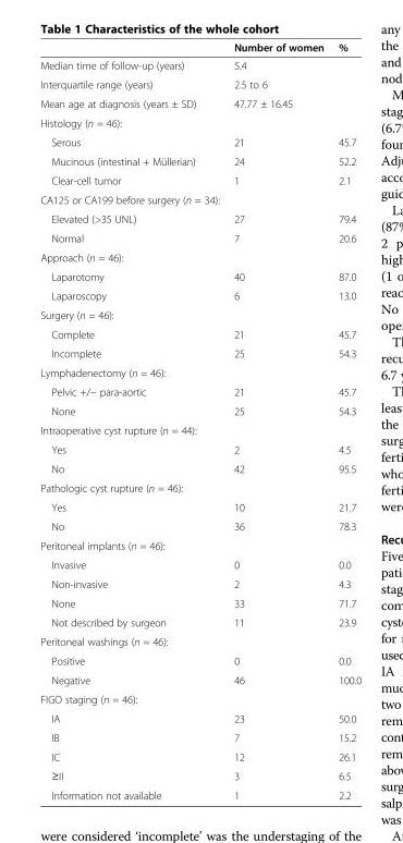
<table><thead><tr><td></td><td>Number of women</td><td>%</td></tr></thead><tbody><tr><td>Median time of follow-up (years)</td><td>5.4</td><td></td></tr><tr><td>Interquartile range (years)</td><td>2.5 to 6</td><td></td></tr><tr><td>Mean age at diagnosis (years ± SD)</td><td>47.77 ± 16.45</td><td></td></tr><tr><td colspan="3">Histology (n = 46):</td></tr><tr><td>Serous</td><td>21</td><td>45.7</td></tr><tr><td>Mucinous (intestinal + Müllerian)</td><td>24</td><td>52.2</td></tr><tr><td>Clear-cell tumor</td><td>1</td><td>2.1</td></tr><tr><td colspan="3">CA125 or CA199 before surgery (n = 34):</td></tr><tr><td>Elevated (&gt;35 UNL)</td><td>27</td><td>79.4</td></tr><tr><td>Normal</td><td>7</td><td>20.6</td></tr><tr><td colspan="3">Approach (n = 46):</td></tr><tr><td>Laparotomy</td><td>40</td><td>87.0</td></tr><tr><td>Laparoscopy</td><td>6</td><td>13.0</td></tr><tr><td colspan="3">Surgery (n = 46):</td></tr><tr><td>Complete</td><td>21</td><td>45.7</td></tr><tr><td>Incomplete</td><td>25</td><td>54.3</td></tr><tr><td colspan="3">Lymphadenectomy (n = 46):</td></tr><tr><td>Pelvic +/− para-aortic</td><td>21</td><td>45.7</td></tr><tr><td>None</td><td>25</td><td>54.3</td></tr><tr><td colspan="3">Intraoperative cyst rupture (n = 44):</td></tr><tr><td>Yes</td><td>2</td><td>4.5</td></tr><tr><td>No</td><td>42</td><td>95.5</td></tr><tr><td colspan="3">Pathologic cyst rupture (n = 46):</td></tr><tr><td>Yes</td><td>10</td><td>21.7</td></tr><tr><td>No</td><td>36</td><td>78.3</td></tr><tr><td colspan="3">Peritoneal implants (n = 46):</td></tr><tr><td>Invasive</td><td>0</td><td>0.0</td></tr><tr><td>Non-invasive</td><td>2</td><td>4.3</td></tr><tr><td>None</td><td>33</td><td>71.7</td></tr><tr><td>Not described by surgeon</td><td>11</td><td>23.9</td></tr><tr><td colspan="3">Peritoneal washings (n = 46):</td></tr><tr><td>Positive</td><td>0</td><td>0.0</td></tr><tr><td>Negative</td><td>46</td><td>100.0</td></tr><tr><td colspan="3">FIGO staging (n = 46):</td></tr><tr><td>IA</td><td>23</td><td>50.0</td></tr><tr><td>IB</td><td>7</td><td>15.2</td></tr><tr><td>IC</td><td>12</td><td>26.1</td></tr><tr><td>≥II</td><td>3</td><td>6.5</td></tr><tr><td>Information not available</td><td>1</td><td>2.2</td></tr></tbody></table>